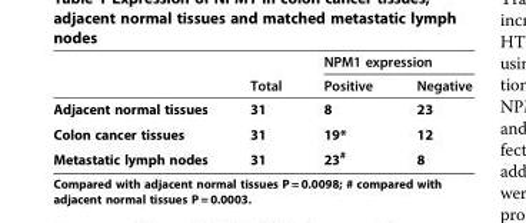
<table><thead><tr><td rowspan="2"></td><td rowspan="2">Total</td><td colspan="2">NPM1 expression</td></tr><tr><td>Positive</td><td>Negative</td></tr></thead><tbody><tr><td>Adjacent normal tissues</td><td>31</td><td>8</td><td>23</td></tr><tr><td>Colon cancer tissues</td><td>31</td><td>19*</td><td>12</td></tr><tr><td>Metastatic lymph nodes</td><td>31</td><td>23<sup>#</sup></td><td>8</td></tr></tbody></table>